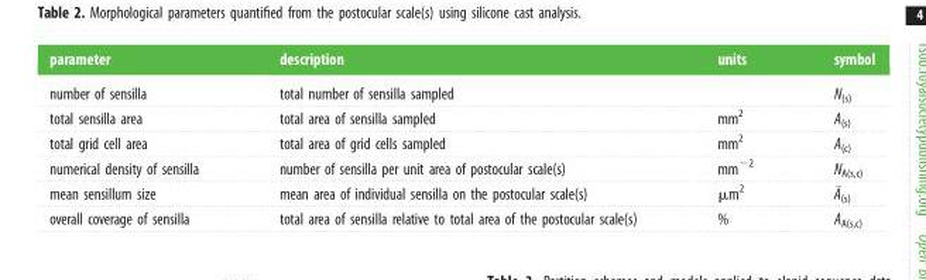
<table><thead><tr><td>parameter</td><td>description</td><td>units</td><td>symbol</td></tr></thead><tbody><tr><td>number of sensilla</td><td>total number of sensilla sampled</td><td></td><td>N<sub>(s)</sub></td></tr><tr><td>total sensilla area</td><td>total area of sensilla sampled</td><td>mm<sup>2</sup></td><td>A<sub>(s)</sub></td></tr><tr><td>total grid cell area</td><td>total area of grid cells sampled</td><td>mm<sup>2</sup></td><td>A<sub>(c)</sub></td></tr><tr><td>numerical density of sensilla</td><td>number of sensilla per unit area of postocular scale(s)</td><td>mm<sup>−2</sup></td><td>N<sub>A(s,c)</sub></td></tr><tr><td>mean sensillum size</td><td>mean area of individual sensilla on the postocular scale(s)</td><td>μm<sup>2</sup></td><td>�A(s)</td></tr><tr><td>overall coverage of sensilla</td><td>total area of sensilla relative to total area of the postocular scale(s)</td><td>%</td><td>A<sub>A(s,c)</sub></td></tr></tbody></table>